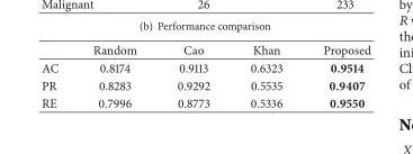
<table><thead><tr><td></td><td>Random</td><td>Cao</td><td>Khan</td><td>Proposed</td></tr></thead><tbody><tr><td>AC</td><td>0.8174</td><td>0.9113</td><td>0.6323</td><td>0.9514</td></tr><tr><td>PR</td><td>0.8283</td><td>0.9292</td><td>0.5535</td><td>0.9407</td></tr><tr><td>RE</td><td>0.7996</td><td>0.8773</td><td>0.5336</td><td>0.9550</td></tr></tbody></table>